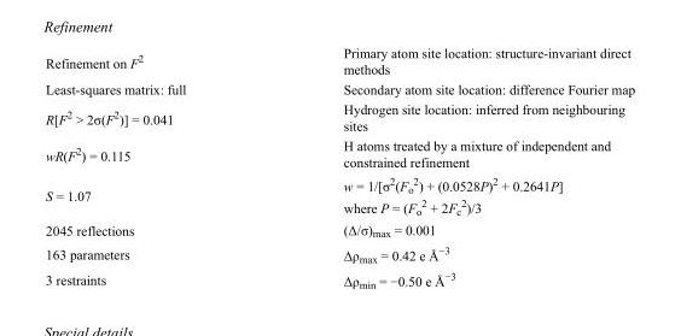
<table><tbody><tr><td>Refinement on F<sup>2</sup></td><td>Primary atom site location: structure-invariant direct methods</td></tr><tr><td>Least-squares matrix: full</td><td>Secondary atom site location: difference Fourier map</td></tr><tr><td>R[F<sup>2</sup> &gt; 2σ(F<sup>2</sup>)] = 0.041</td><td>Hydrogen site location: inferred from neighbouring sites</td></tr><tr><td>wR(F<sup>2</sup>) = 0.115</td><td>H atoms treated by a mixture of independent and constrained refinement</td></tr><tr><td>S = 1.07</td><td>w = 1/[σ<sup>2</sup>(F<sub>o</sub> <sup>2</sup>) + (0.0528P)<sup>2</sup> + 0.2641P] where P = (F<sub>o</sub> <sup>2</sup> + 2F<sub>c</sub> <sup>2</sup>)/3</td></tr><tr><td>2045 reflections</td><td>(Δ/σ)<sub>max</sub> = 0.001</td></tr><tr><td>163 parameters</td><td>Δρ<sub>max</sub> = 0.42 e Å<sup>−3</sup></td></tr><tr><td>3 restraints</td><td>Δρ<sub>min</sub> = −0.50 e Å<sup>−3</sup></td></tr></tbody></table>